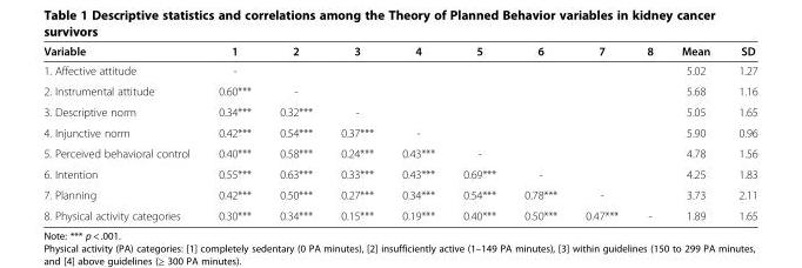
<table><thead><tr><td>Variable</td><td>1</td><td>2</td><td>3</td><td>4</td><td>5</td><td>6</td><td>7</td><td>8</td><td>Mean</td><td>SD</td></tr></thead><tbody><tr><td>1. Affective attitude</td><td>-</td><td></td><td></td><td></td><td></td><td></td><td></td><td></td><td>5.02</td><td>1.27</td></tr><tr><td>2. Instrumental attitude</td><td>0.60***</td><td>-</td><td></td><td></td><td></td><td></td><td></td><td></td><td>5.68</td><td>1.16</td></tr><tr><td>3. Descriptive norm</td><td>0.34***</td><td>0.32***</td><td>-</td><td></td><td></td><td></td><td></td><td></td><td>5.05</td><td>1.65</td></tr><tr><td>4. Injunctive norm</td><td>0.42***</td><td>0.54***</td><td>0.37***</td><td>-</td><td></td><td></td><td></td><td></td><td>5.90</td><td>0.96</td></tr><tr><td>5. Perceived behavioral control</td><td>0.40***</td><td>0.58***</td><td>0.24***</td><td>0.43***</td><td>-</td><td></td><td></td><td></td><td>4.78</td><td>1.56</td></tr><tr><td>6. Intention</td><td>0.55***</td><td>0.63***</td><td>0.33***</td><td>0.43***</td><td>0.69***</td><td>-</td><td></td><td></td><td>4.25</td><td>1.83</td></tr><tr><td>7. Planning</td><td>0.42***</td><td>0.50***</td><td>0.27***</td><td>0.34***</td><td>0.54***</td><td>0.78***</td><td>-</td><td></td><td>3.73</td><td>2.11</td></tr><tr><td>8. Physical activity categories</td><td>0.30***</td><td>0.34***</td><td>0.15***</td><td>0.19***</td><td>0.40***</td><td>0.50***</td><td>0.47***</td><td>-</td><td>1.89</td><td>1.65</td></tr></tbody></table>